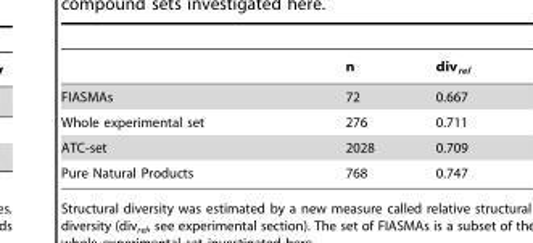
<table><thead><tr><td></td><td>n</td><td>div<sub>rel</sub></td></tr></thead><tbody><tr><td>FIASMAs</td><td>72</td><td>0.667</td></tr><tr><td>Whole experimental set</td><td>276</td><td>0.711</td></tr><tr><td>ATC-set</td><td>2028</td><td>0.709</td></tr><tr><td>Pure Natural Products</td><td>768</td><td>0.747</td></tr></tbody></table>